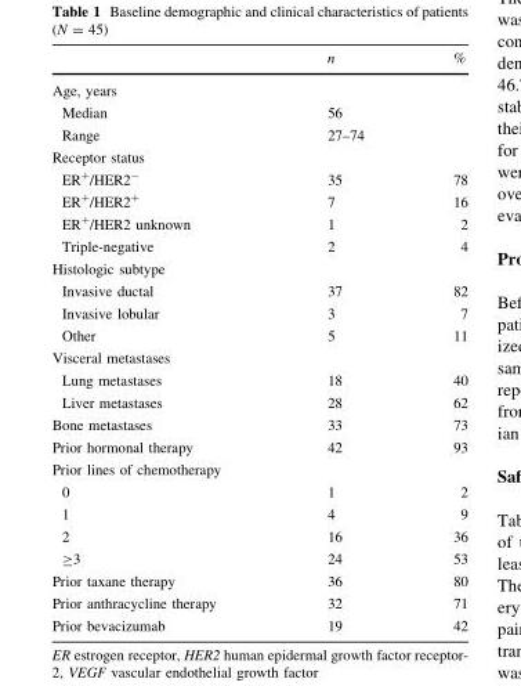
<table><thead><tr><td></td><td>n</td><td>%</td></tr></thead><tbody><tr><td colspan="3">Age, years</td></tr><tr><td>Median</td><td colspan="2">56</td></tr><tr><td>Range</td><td colspan="2">27–74</td></tr><tr><td colspan="3">Receptor status</td></tr><tr><td>ER<sup>+</sup>/HER2<sup>-</sup></td><td>35</td><td>78</td></tr><tr><td>ER<sup>+</sup>/HER2<sup>+</sup></td><td>7</td><td>16</td></tr><tr><td>ER<sup>+</sup>/HER2 unknown</td><td>1</td><td>2</td></tr><tr><td>Triple-negative</td><td>2</td><td>4</td></tr><tr><td colspan="3">Histologic subtype</td></tr><tr><td>Invasive ductal</td><td>37</td><td>82</td></tr><tr><td>Invasive lobular</td><td>3</td><td>7</td></tr><tr><td>Other</td><td>5</td><td>11</td></tr><tr><td colspan="3">Visceral metastases</td></tr><tr><td>Lung metastases</td><td>18</td><td>40</td></tr><tr><td>Liver metastases</td><td>28</td><td>62</td></tr><tr><td>Bone metastases</td><td>33</td><td>73</td></tr><tr><td>Prior hormonal therapy</td><td>42</td><td>93</td></tr><tr><td colspan="3">Prior lines of chemotherapy</td></tr><tr><td>0</td><td>1</td><td>2</td></tr><tr><td>1</td><td>4</td><td>9</td></tr><tr><td>2</td><td>16</td><td>36</td></tr><tr><td>≥3</td><td>24</td><td>53</td></tr><tr><td>Prior taxane therapy</td><td>36</td><td>80</td></tr><tr><td>Prior anthracycline therapy</td><td>32</td><td>71</td></tr><tr><td>Prior bevacizumab</td><td>19</td><td>42</td></tr></tbody></table>